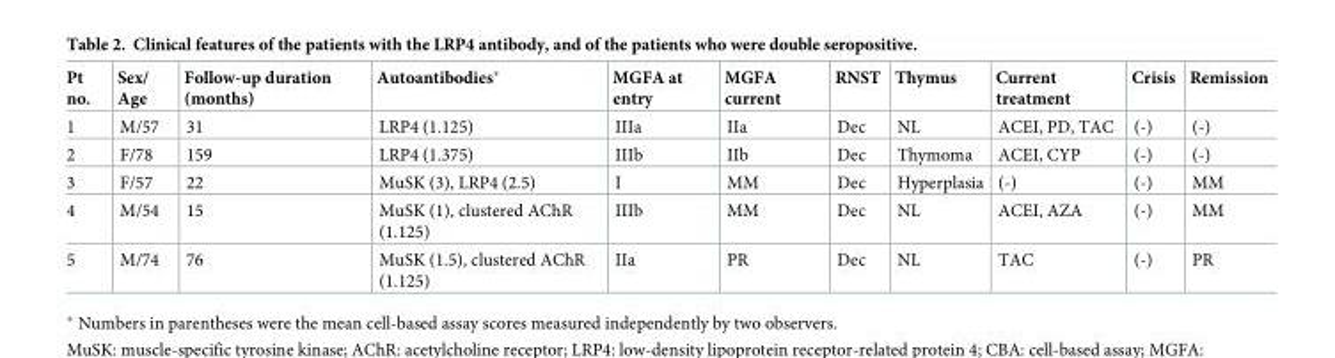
<table><thead><tr><td>Pt no.</td><td>Sex/ Age</td><td>Follow-up duration (months)</td><td>Autoantibodies*</td><td>MGFA at entry</td><td>MGFA current</td><td>RNST</td><td>Thymus</td><td>Current treatment</td><td>Crisis</td><td>Remission</td></tr></thead><tbody><tr><td>1</td><td>M/57</td><td>31</td><td>LRP4 (1.125)</td><td>IIIa</td><td>IIa</td><td>Dec</td><td>NL</td><td>ACEI, PD, TAC</td><td>(-)</td><td>(-)</td></tr><tr><td>2</td><td>F/78</td><td>159</td><td>LRP4 (1.375)</td><td>IIIb</td><td>IIb</td><td>Dec</td><td>Thymoma</td><td>ACEI, CYP</td><td>(-)</td><td>(-)</td></tr><tr><td>3</td><td>F/57</td><td>22</td><td>MuSK (3), LRP4 (2.5)</td><td>I</td><td>MM</td><td>Dec</td><td>Hyperplasia</td><td>(-)</td><td>(-)</td><td>MM</td></tr><tr><td>4</td><td>M/54</td><td>15</td><td>MuSK (1), clustered AChR (1.125)</td><td>IIIb</td><td>MM</td><td>Dec</td><td>NL</td><td>ACEI, AZA</td><td>(-)</td><td>MM</td></tr><tr><td>5</td><td>M/74</td><td>76</td><td>MuSK (1.5), clustered AChR (1.125)</td><td>IIa</td><td>PR</td><td>Dec</td><td>NL</td><td>TAC</td><td>(-)</td><td>PR</td></tr></tbody></table>